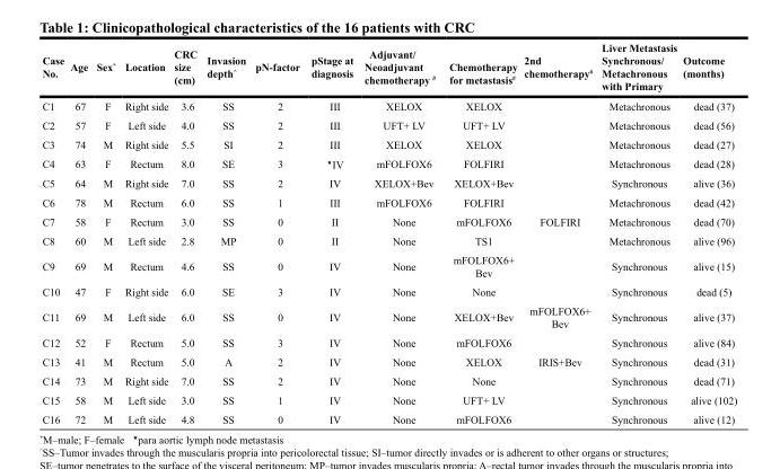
<table><thead><tr><td>Case No.</td><td>Age</td><td>Sex*</td><td>Location</td><td>CRC size (cm)</td><td>Invasion depth<sup>^</sup></td><td>pN-factor</td><td>pStage at diagnosis</td><td>Adjuvant/ Neoadjuvant chemotherapy <sup>#</sup></td><td>Chemotherapy for metastasis<sup>#</sup></td><td>2nd chemotherapy<sup>#</sup></td><td>Liver Metastasis Synchronous/ Metachronous with Primary</td><td>Outcome (months)</td></tr></thead><tbody><tr><td>C1</td><td>67</td><td>F</td><td>Right side</td><td>3.6</td><td>SS</td><td>2</td><td>III</td><td>XELOX</td><td>XELOX</td><td></td><td>Metachronous</td><td>dead (37)</td></tr><tr><td>C2</td><td>57</td><td>F</td><td>Left side</td><td>4.0</td><td>SS</td><td>2</td><td>III</td><td>UFT+ LV</td><td>UFT+ LV</td><td></td><td>Metachronous</td><td>dead (56)</td></tr><tr><td>C3</td><td>74</td><td>M</td><td>Right side</td><td>5.5</td><td>SI</td><td>2</td><td>III</td><td>XELOX</td><td>XELOX</td><td></td><td>Metachronous</td><td>dead (27)</td></tr><tr><td>C4</td><td>63</td><td>F</td><td>Rectum</td><td>8.0</td><td>SE</td><td>3</td><td><sup>⋆</sup>IV</td><td>mFOLFOX6</td><td>FOLFIRI</td><td></td><td>Metachronous</td><td>dead (28)</td></tr><tr><td>C5</td><td>64</td><td>M</td><td>Right side</td><td>7.0</td><td>SS</td><td>2</td><td>IV</td><td>XELOX+Bev</td><td>XELOX+Bev</td><td></td><td>Synchronous</td><td>alive (36)</td></tr><tr><td>C6</td><td>78</td><td>M</td><td>Rectum</td><td>6.0</td><td>SS</td><td>1</td><td>III</td><td>mFOLFOX6</td><td>FOLFIRI</td><td></td><td>Metachronous</td><td>dead (42)</td></tr><tr><td>C7</td><td>58</td><td>F</td><td>Rectum</td><td>3.0</td><td>SS</td><td>0</td><td>II</td><td>None</td><td>mFOLFOX6</td><td>FOLFIRI</td><td>Metachronous</td><td>dead (70)</td></tr><tr><td>C8</td><td>60</td><td>M</td><td>Left side</td><td>2.8</td><td>MP</td><td>0</td><td>II</td><td>None</td><td>TS1</td><td></td><td>Metachronous</td><td>alive (96)</td></tr><tr><td>C9</td><td>69</td><td>M</td><td>Rectum</td><td>4.6</td><td>SS</td><td>0</td><td>IV</td><td>None</td><td>mFOLFOX6+ Bev</td><td></td><td>Synchronous</td><td>alive (15)</td></tr><tr><td>C10</td><td>47</td><td>F</td><td>Right side</td><td>6.0</td><td>SE</td><td>3</td><td>IV</td><td>None</td><td>None</td><td></td><td>Synchronous</td><td>dead (5)</td></tr><tr><td>C11</td><td>69</td><td>M</td><td>Left side</td><td>6.0</td><td>SS</td><td>0</td><td>IV</td><td>None</td><td>XELOX+Bev</td><td>mFOLFOX6+ Bev</td><td>Synchronous</td><td>alive (37)</td></tr><tr><td>C12</td><td>52</td><td>F</td><td>Rectum</td><td>5.0</td><td>SS</td><td>3</td><td>IV</td><td>None</td><td>mFOLFOX6</td><td></td><td>Synchronous</td><td>alive (84)</td></tr><tr><td>C13</td><td>41</td><td>M</td><td>Rectum</td><td>5.0</td><td>A</td><td>2</td><td>IV</td><td>None</td><td>XELOX</td><td>IRIS+Bev</td><td>Synchronous</td><td>dead (31)</td></tr><tr><td>C14</td><td>73</td><td>M</td><td>Right side</td><td>7.0</td><td>SS</td><td>2</td><td>IV</td><td>None</td><td>None</td><td></td><td>Synchronous</td><td>dead (71)</td></tr><tr><td>C15</td><td>58</td><td>M</td><td>Left side</td><td>3.0</td><td>SS</td><td>1</td><td>IV</td><td>None</td><td>UFT+ LV</td><td></td><td>Synchronous</td><td>alive (102)</td></tr><tr><td>C16</td><td>72</td><td>M</td><td>Left side</td><td>4.8</td><td>SS</td><td>0</td><td>IV</td><td>None</td><td>mFOLFOX6</td><td></td><td>Synchronous</td><td>alive (12)</td></tr></tbody></table>